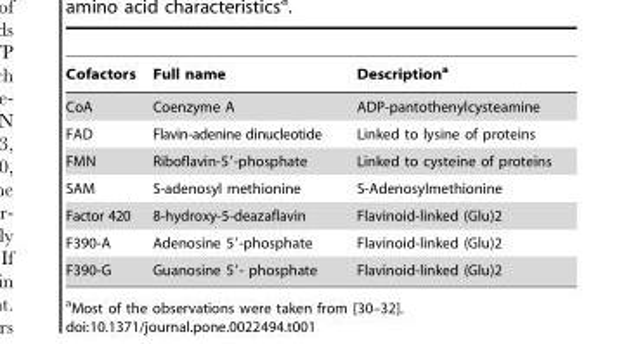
<table><thead><tr><td>Cofactors</td><td>Full name</td><td>Description<sup>a</sup></td></tr></thead><tbody><tr><td>CoA</td><td>Coenzyme A</td><td>ADP-pantothenylcysteamine</td></tr><tr><td>FAD</td><td>Flavin-adenine dinucleotide</td><td>Linked to lysine of proteins</td></tr><tr><td>FMN</td><td>Riboflavin-5′-phosphate</td><td>Linked to cysteine of proteins</td></tr><tr><td>SAM</td><td>S-adenosyl methionine</td><td>S-Adenosylmethionine</td></tr><tr><td>Factor 420</td><td>8-hydroxy-5-deazaflavin</td><td>Flavinoid-linked (Glu)2</td></tr><tr><td>F390-A</td><td>Adenosine 5′-phosphate</td><td>Flavinoid-linked (Glu)2</td></tr><tr><td>F390-G</td><td>Guanosine 5′- phosphate</td><td>Flavinoid-linked (Glu)2</td></tr></tbody></table>